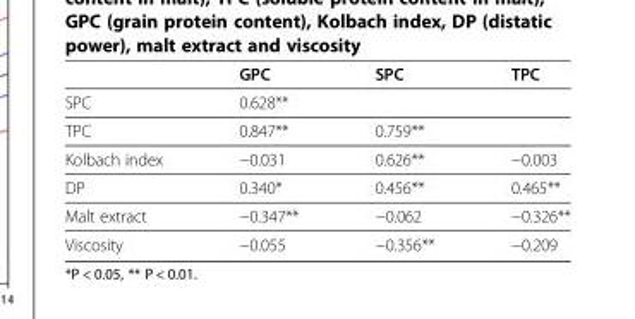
<table><thead><tr><td></td><td>GPC</td><td>SPC</td><td>TPC</td></tr></thead><tbody><tr><td>SPC</td><td>0.628**</td><td></td><td></td></tr><tr><td>TPC</td><td>0.847**</td><td>0.759**</td><td></td></tr><tr><td>Kolbach index</td><td>−0.031</td><td>0.626**</td><td>−0.003</td></tr><tr><td>DP</td><td>0.340*</td><td>0.456**</td><td>0.465**</td></tr><tr><td>Malt extract</td><td>−0.347**</td><td>−0.062</td><td>−0.326**</td></tr><tr><td>Viscosity</td><td>−0.055</td><td>−0.356**</td><td>−0.209</td></tr></tbody></table>